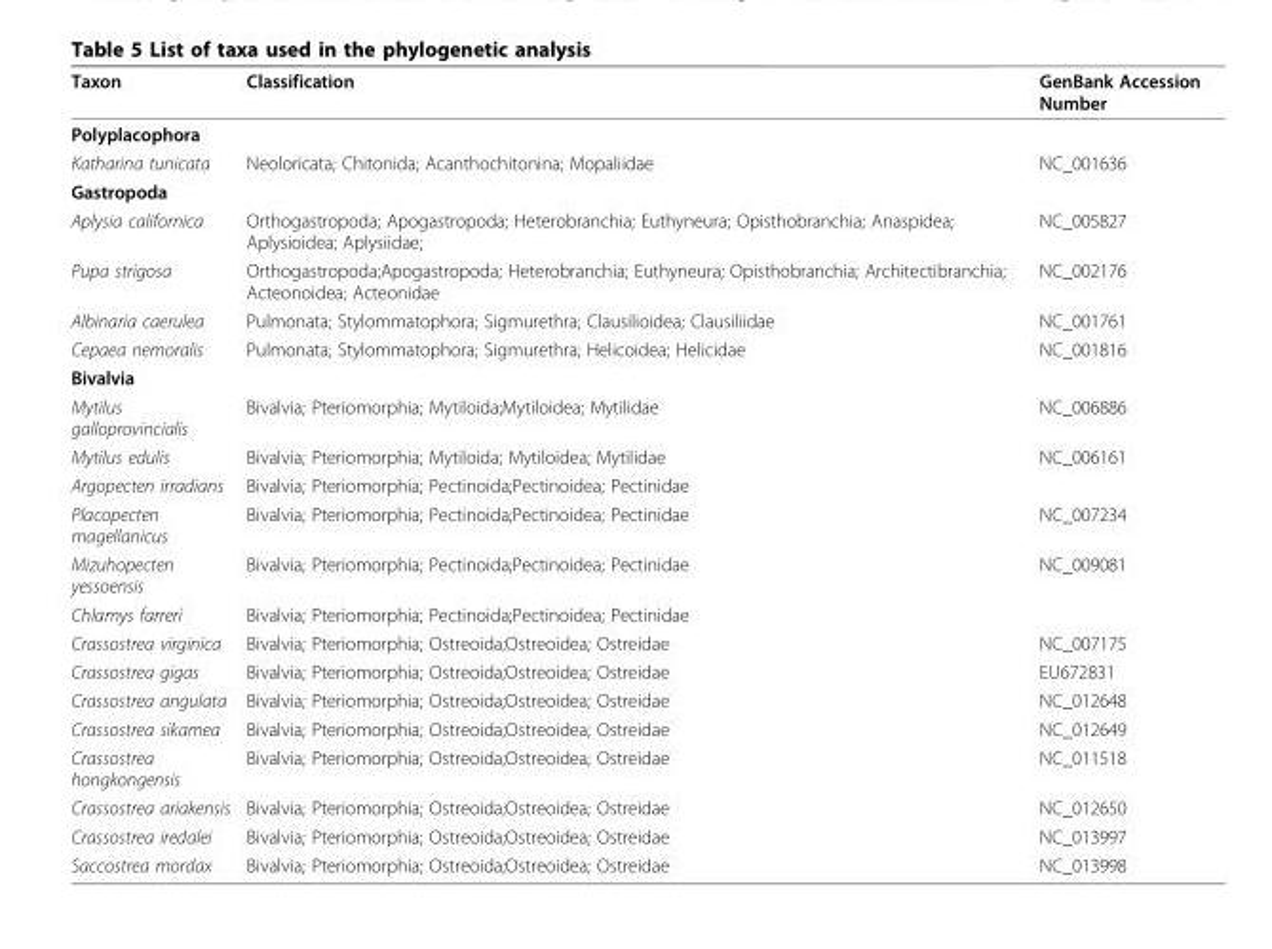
<table><thead><tr><td>Taxon</td><td>Classification</td><td>GenBank Accession Number</td></tr></thead><tbody><tr><td colspan="3">Polyplacophora</td></tr><tr><td>Katharina tunicata</td><td>Neoloricata; Chitonida; Acanthochitonina; Mopaliidae</td><td>NC_001636</td></tr><tr><td colspan="3">Gastropoda</td></tr><tr><td>Aplysia californica</td><td>Orthogastropoda; Apogastropoda; Heterobranchia; Euthyneura; Opisthobranchia; Anaspidea; Aplysioidea; Aplysiidae;</td><td>NC_005827</td></tr><tr><td>Pupa strigosa</td><td>Orthogastropoda;Apogastropoda; Heterobranchia; Euthyneura; Opisthobranchia; Architectibranchia; Acteonoidea; Acteonidae</td><td>NC_002176</td></tr><tr><td>Albinaria caerulea</td><td>Pulmonata; Stylommatophora; Sigmurethra; Clausilioidea; Clausiliidae</td><td>NC_001761</td></tr><tr><td>Cepaea nemoralis</td><td>Pulmonata; Stylommatophora; Sigmurethra; Helicoidea; Helicidae</td><td>NC_001816</td></tr><tr><td colspan="3">Bivalvia</td></tr><tr><td>Mytilus galloprovincialis</td><td>Bivalvia; Pteriomorphia; Mytiloida;Mytiloidea; Mytilidae</td><td>NC_006886</td></tr><tr><td>Mytilus edulis</td><td>Bivalvia; Pteriomorphia; Mytiloida; Mytiloidea; Mytilidae</td><td>NC_006161</td></tr><tr><td>Argopecten irradians</td><td>Bivalvia; Pteriomorphia; Pectinoida;Pectinoidea; Pectinidae</td><td></td></tr><tr><td>Placopecten magellanicus</td><td>Bivalvia; Pteriomorphia; Pectinoida;Pectinoidea; Pectinidae</td><td>NC_007234</td></tr><tr><td>Mizuhopecten yessoensis</td><td>Bivalvia; Pteriomorphia; Pectinoida;Pectinoidea; Pectinidae</td><td>NC_009081</td></tr><tr><td>Chlamys farreri</td><td>Bivalvia; Pteriomorphia; Pectinoida;Pectinoidea; Pectinidae</td><td></td></tr><tr><td>Crassostrea virginica</td><td>Bivalvia; Pteriomorphia; Ostreoida;Ostreoidea; Ostreidae</td><td>NC_007175</td></tr><tr><td>Crassostrea gigas</td><td>Bivalvia; Pteriomorphia; Ostreoida;Ostreoidea; Ostreidae</td><td>EU672831</td></tr><tr><td>Crassostrea angulata</td><td>Bivalvia; Pteriomorphia; Ostreoida;Ostreoidea; Ostreidae</td><td>NC_012648</td></tr><tr><td>Crassostrea sikamea</td><td>Bivalvia; Pteriomorphia; Ostreoida;Ostreoidea; Ostreidae</td><td>NC_012649</td></tr><tr><td>Crassostrea hongkongensis</td><td>Bivalvia; Pteriomorphia; Ostreoida;Ostreoidea; Ostreidae</td><td>NC_011518</td></tr><tr><td>Crassostrea ariakensis</td><td>Bivalvia; Pteriomorphia; Ostreoida;Ostreoidea; Ostreidae</td><td>NC_012650</td></tr><tr><td>Crassostrea iredalei</td><td>Bivalvia; Pteriomorphia; Ostreoida;Ostreoidea; Ostreidae</td><td>NC_013997</td></tr><tr><td>Saccostrea mordax</td><td>Bivalvia; Pteriomorphia; Ostreoida;Ostreoidea; Ostreidae</td><td>NC_013998</td></tr></tbody></table>